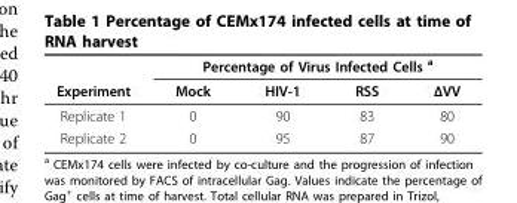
<table><thead><tr><td rowspan="2">Experiment</td><td colspan="4">Percentage of Virus Infected Cells <sup>a</sup></td></tr><tr><td>Mock</td><td>HIV-1</td><td>RSS</td><td>ΔVV</td></tr></thead><tbody><tr><td>Replicate 1</td><td>0</td><td>90</td><td>83</td><td>80</td></tr><tr><td>Replicate 2</td><td>0</td><td>95</td><td>87</td><td>90</td></tr></tbody></table>